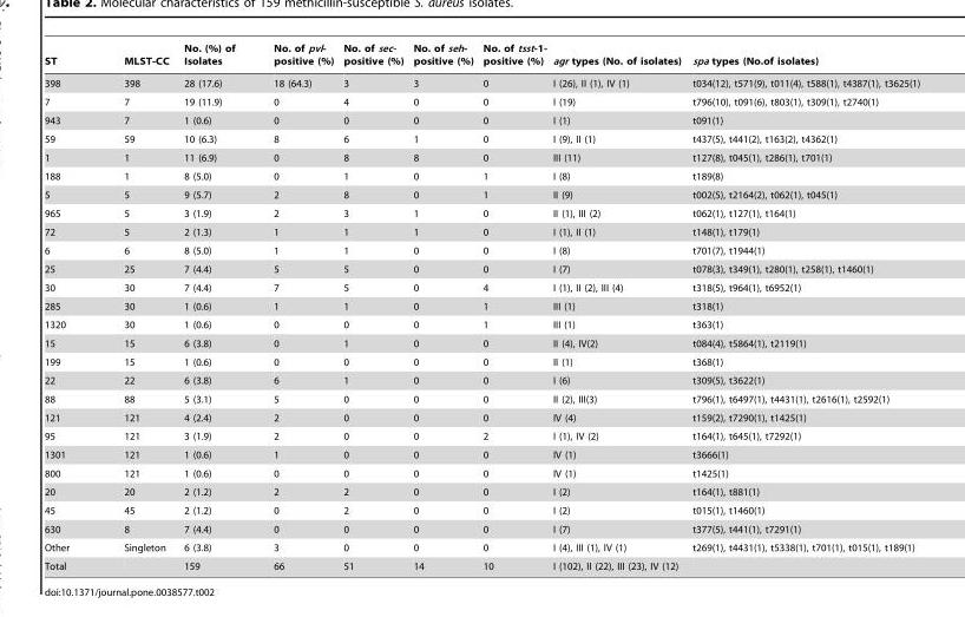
<table><thead><tr><td>ST</td><td>MLST-CC</td><td>No. (%) of Isolates</td><td>No. of pvl- positive (%)</td><td>No. of sec- positive (%)</td><td>No. of seh- positive (%)</td><td>No. of tsst-1- positive (%)</td><td>agr types (No. of isolates)</td><td>spa types (No.of isolates)</td></tr></thead><tbody><tr><td>398</td><td>398</td><td>28 (17.6)</td><td>18 (64.3)</td><td>3</td><td>3</td><td>0</td><td>I (26), II (1), IV (1)</td><td>t034(12), t571(9), t011(4), t588(1), t4387(1), t3625(1)</td></tr><tr><td>7</td><td>7</td><td>19 (11.9)</td><td>0</td><td>4</td><td>0</td><td>0</td><td>I (19)</td><td>t796(10), t091(6), t803(1), t309(1), t2740(1)</td></tr><tr><td>943</td><td>7</td><td>1 (0.6)</td><td>0</td><td>0</td><td>0</td><td>0</td><td>I (1)</td><td>t091(1)</td></tr><tr><td>59</td><td>59</td><td>10 (6.3)</td><td>8</td><td>6</td><td>1</td><td>0</td><td>I (9), II (1)</td><td>t437(5), t441(2), t163(2), t4362(1)</td></tr><tr><td>1</td><td>1</td><td>11 (6.9)</td><td>0</td><td>8</td><td>8</td><td>0</td><td>III (11)</td><td>t127(8), t045(1), t286(1), t701(1)</td></tr><tr><td>188</td><td>1</td><td>8 (5.0)</td><td>0</td><td>1</td><td>0</td><td>1</td><td>I (8)</td><td>t189(8)</td></tr><tr><td>5</td><td>5</td><td>9 (5.7)</td><td>2</td><td>8</td><td>0</td><td>1</td><td>II (9)</td><td>t002(5), t2164(2), t062(1), t045(1)</td></tr><tr><td>965</td><td>5</td><td>3 (1.9)</td><td>2</td><td>3</td><td>1</td><td>0</td><td>II (1), III (2)</td><td>t062(1), t127(1), t164(1)</td></tr><tr><td>72</td><td>5</td><td>2 (1.3)</td><td>1</td><td>1</td><td>1</td><td>0</td><td>I (1), II (1)</td><td>t148(1), t179(1)</td></tr><tr><td>6</td><td>6</td><td>8 (5.0)</td><td>1</td><td>1</td><td>0</td><td>0</td><td>I (8)</td><td>t701(7), t1944(1)</td></tr><tr><td>25</td><td>25</td><td>7 (4.4)</td><td>5</td><td>5</td><td>0</td><td>0</td><td>I (7)</td><td>t078(3), t349(1), t280(1), t258(1), t1460(1)</td></tr><tr><td>30</td><td>30</td><td>7 (4.4)</td><td>7</td><td>5</td><td>0</td><td>4</td><td>I (1), II (2), III (4)</td><td>t318(5), t964(1), t6952(1)</td></tr><tr><td>285</td><td>30</td><td>1 (0.6)</td><td>1</td><td>1</td><td>0</td><td>1</td><td>III (1)</td><td>t318(1)</td></tr><tr><td>1320</td><td>30</td><td>1 (0.6)</td><td>0</td><td>0</td><td>0</td><td>1</td><td>III (1)</td><td>t363(1)</td></tr><tr><td>15</td><td>15</td><td>6 (3.8)</td><td>0</td><td>1</td><td>0</td><td>0</td><td>II (4), IV(2)</td><td>t084(4), t5864(1), t2119(1)</td></tr><tr><td>199</td><td>15</td><td>1 (0.6)</td><td>0</td><td>0</td><td>0</td><td>0</td><td>II (1)</td><td>t368(1)</td></tr><tr><td>22</td><td>22</td><td>6 (3.8)</td><td>6</td><td>1</td><td>0</td><td>0</td><td>I (6)</td><td>t309(5), t3622(1)</td></tr><tr><td>88</td><td>88</td><td>5 (3.1)</td><td>5</td><td>0</td><td>0</td><td>0</td><td>II (2), III(3)</td><td>t796(1), t6497(1), t4431(1), t2616(1), t2592(1)</td></tr><tr><td>121</td><td>121</td><td>4 (2.4)</td><td>2</td><td>0</td><td>0</td><td>0</td><td>IV (4)</td><td>t159(2), t7290(1), t1425(1)</td></tr><tr><td>95</td><td>121</td><td>3 (1.9)</td><td>2</td><td>0</td><td>0</td><td>2</td><td>I (1), IV (2)</td><td>t164(1), t645(1), t7292(1)</td></tr><tr><td>1301</td><td>121</td><td>1 (0.6)</td><td>1</td><td>0</td><td>0</td><td>0</td><td>IV (1)</td><td>t3666(1)</td></tr><tr><td>800</td><td>121</td><td>1 (0.6)</td><td>0</td><td>0</td><td>0</td><td>0</td><td>IV (1)</td><td>t1425(1)</td></tr><tr><td>20</td><td>20</td><td>2 (1.2)</td><td>2</td><td>2</td><td>0</td><td>0</td><td>I (2)</td><td>t164(1), t881(1)</td></tr><tr><td>45</td><td>45</td><td>2 (1.2)</td><td>0</td><td>2</td><td>0</td><td>0</td><td>I (2)</td><td>t015(1), t1460(1)</td></tr><tr><td>630</td><td>8</td><td>7 (4.4)</td><td>0</td><td>0</td><td>0</td><td>0</td><td>I (7)</td><td>t377(5), t441(1), t7291(1)</td></tr><tr><td>Other</td><td>Singleton</td><td>6 (3.8)</td><td>3</td><td>0</td><td>0</td><td>0</td><td>I (4), III (1), IV (1)</td><td>t269(1), t4431(1), t5338(1), t701(1), t015(1), t189(1)</td></tr><tr><td>Total</td><td></td><td>159</td><td>66</td><td>51</td><td>14</td><td>10</td><td>I (102), II (22), III (23), IV (12)</td><td></td></tr></tbody></table>